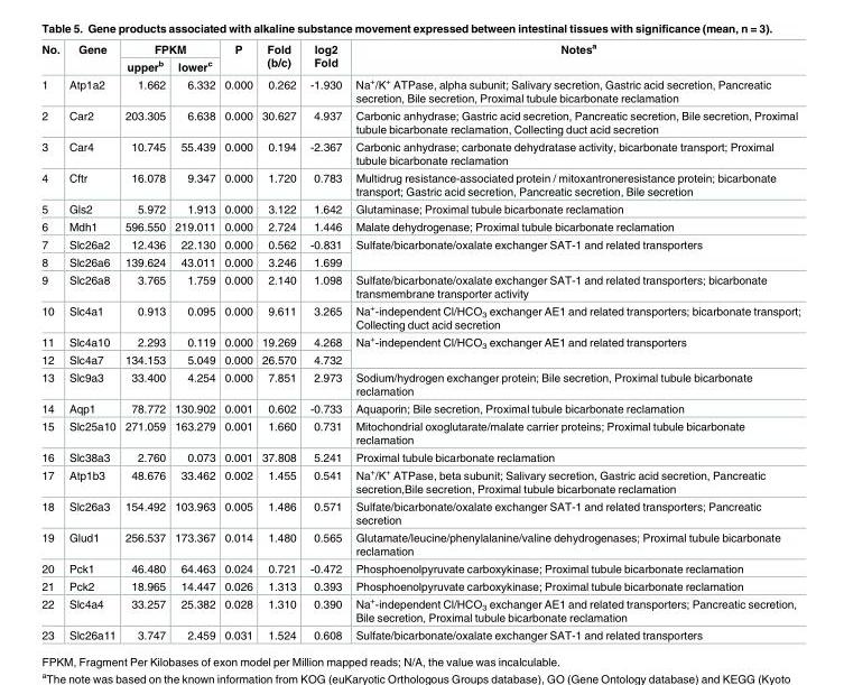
<table><thead><tr><td rowspan="2">No.</td><td rowspan="2">Gene</td><td colspan="2">FPKM</td><td rowspan="2">P</td><td rowspan="2">Fold (b/c)</td><td rowspan="2">log2 Fold</td><td rowspan="2">Notes<sup>a</sup></td></tr><tr><td>upper<sup>b</sup></td><td>lower<sup>c</sup></td></tr></thead><tbody><tr><td>1</td><td>Atp1a2</td><td>1.662</td><td>6.332</td><td>0.000</td><td>0.262</td><td>-1.930</td><td>Na<sup>+</sup>/K<sup>+</sup> ATPase, alpha subunit; Salivary secretion, Gastric acid secretion, Pancreatic secretion, Bile secretion, Proximal tubule bicarbonate reclamation</td></tr><tr><td>2</td><td>Car2</td><td>203.305</td><td>6.638</td><td>0.000</td><td>30.627</td><td>4.937</td><td>Carbonic anhydrase; Gastric acid secretion, Pancreatic secretion, Bile secretion, Proximal tubule bicarbonate reclamation, Collecting duct acid secretion</td></tr><tr><td>3</td><td>Car4</td><td>10.745</td><td>55.439</td><td>0.000</td><td>0.194</td><td>-2.367</td><td>Carbonic anhydrase; carbonate dehydratase activity, bicarbonate transport; Proximal tubule bicarbonate reclamation</td></tr><tr><td>4</td><td>Cftr</td><td>16.078</td><td>9.347</td><td>0.000</td><td>1.720</td><td>0.783</td><td>Multidrug resistance-associated protein / mitoxantroneresistance protein; bicarbonate transport; Gastric acid secretion, Pancreatic secretion, Bile secretion</td></tr><tr><td>5</td><td>Gls2</td><td>5.972</td><td>1.913</td><td>0.000</td><td>3.122</td><td>1.642</td><td>Glutaminase; Proximal tubule bicarbonate reclamation</td></tr><tr><td>6</td><td>Mdh1</td><td>596.550</td><td>219.011</td><td>0.000</td><td>2.724</td><td>1.446</td><td>Malate dehydrogenase; Proximal tubule bicarbonate reclamation</td></tr><tr><td>7</td><td>Slc26a2</td><td>12.436</td><td>22.130</td><td>0.000</td><td>0.562</td><td>-0.831</td><td rowspan="2">Sulfate/bicarbonate/oxalate exchanger SAT-1 and related transporters</td></tr><tr><td>8</td><td>Slc26a6</td><td>139.624</td><td>43.011</td><td>0.000</td><td>3.246</td><td>1.699</td></tr><tr><td>9</td><td>Slc26a8</td><td>3.765</td><td>1.759</td><td>0.000</td><td>2.140</td><td>1.098</td><td>Sulfate/bicarbonate/oxalate exchanger SAT-1 and related transporters; bicarbonate transmembrane transporter activity</td></tr><tr><td>10</td><td>Slc4a1</td><td>0.913</td><td>0.095</td><td>0.000</td><td>9.611</td><td>3.265</td><td>Na<sup>+</sup>-independent Cl/HCO<sub>3</sub> exchanger AE1 and related transporters; bicarbonate transport; Collecting duct acid secretion</td></tr><tr><td>11</td><td>Slc4a10</td><td>2.293</td><td>0.119</td><td>0.000</td><td>19.269</td><td>4.268</td><td rowspan="2">Na<sup>+</sup>-independent Cl/HCO<sub>3</sub> exchanger AE1 and related transporters</td></tr><tr><td>12</td><td>Slc4a7</td><td>134.153</td><td>5.049</td><td>0.000</td><td>26.570</td><td>4.732</td></tr><tr><td>13</td><td>Slc9a3</td><td>33.400</td><td>4.254</td><td>0.000</td><td>7.851</td><td>2.973</td><td>Sodium/hydrogen exchanger protein; Bile secretion, Proximal tubule bicarbonate reclamation</td></tr><tr><td>14</td><td>Aqp1</td><td>78.772</td><td>130.902</td><td>0.001</td><td>0.602</td><td>-0.733</td><td>Aquaporin; Bile secretion, Proximal tubule bicarbonate reclamation</td></tr><tr><td>15</td><td>Slc25a10</td><td>271.059</td><td>163.279</td><td>0.001</td><td>1.660</td><td>0.731</td><td>Mitochondrial oxoglutarate/malate carrier proteins; Proximal tubule bicarbonate reclamation</td></tr><tr><td>16</td><td>Slc38a3</td><td>2.760</td><td>0.073</td><td>0.001</td><td>37.808</td><td>5.241</td><td>Proximal tubule bicarbonate reclamation</td></tr><tr><td>17</td><td>Atp1b3</td><td>48.676</td><td>33.462</td><td>0.002</td><td>1.455</td><td>0.541</td><td>Na<sup>+</sup>/K<sup>+</sup> ATPase, beta subunit; Salivary secretion, Gastric acid secretion, Pancreatic secretion,Bile secretion, Proximal tubule bicarbonate reclamation</td></tr><tr><td>18</td><td>Slc26a3</td><td>154.492</td><td>103.963</td><td>0.005</td><td>1.486</td><td>0.571</td><td>Sulfate/bicarbonate/oxalate exchanger SAT-1 and related transporters; Pancreatic secretion</td></tr><tr><td>19</td><td>Glud1</td><td>256.537</td><td>173.367</td><td>0.014</td><td>1.480</td><td>0.565</td><td>Glutamate/leucine/phenylalanine/valine dehydrogenases; Proximal tubule bicarbonate reclamation</td></tr><tr><td>20</td><td>Pck1</td><td>46.480</td><td>64.463</td><td>0.024</td><td>0.721</td><td>-0.472</td><td>Phosphoenolpyruvate carboxykinase; Proximal tubule bicarbonate reclamation</td></tr><tr><td>21</td><td>Pck2</td><td>18.965</td><td>14.447</td><td>0.026</td><td>1.313</td><td>0.393</td><td>Phosphoenolpyruvate carboxykinase; Proximal tubule bicarbonate reclamation</td></tr><tr><td>22</td><td>Slc4a4</td><td>33.257</td><td>25.382</td><td>0.028</td><td>1.310</td><td>0.390</td><td>Na<sup>+</sup>-independent Cl/HCO<sub>3</sub> exchanger AE1 and related transporters; Pancreatic secretion, Bile secretion, Proximal tubule bicarbonate reclamation</td></tr><tr><td>23</td><td>Slc26a11</td><td>3.747</td><td>2.459</td><td>0.031</td><td>1.524</td><td>0.608</td><td>Sulfate/bicarbonate/oxalate exchanger SAT-1 and related transporters</td></tr></tbody></table>